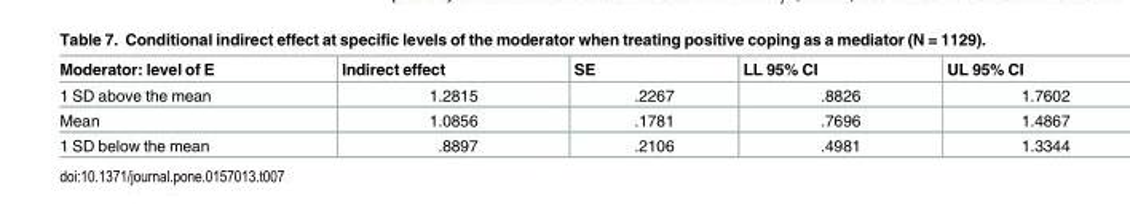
<table><thead><tr><td>Moderator: level of E</td><td>Indirect effect</td><td>SE</td><td>LL 95% CI</td><td>UL 95% CI</td></tr></thead><tbody><tr><td>1 SD above the mean</td><td>1.2815</td><td>.2267</td><td>.8826</td><td>1.7602</td></tr><tr><td>Mean</td><td>1.0856</td><td>.1781</td><td>.7696</td><td>1.4867</td></tr><tr><td>1 SD below the mean</td><td>.8897</td><td>.2106</td><td>.4981</td><td>1.3344</td></tr></tbody></table>